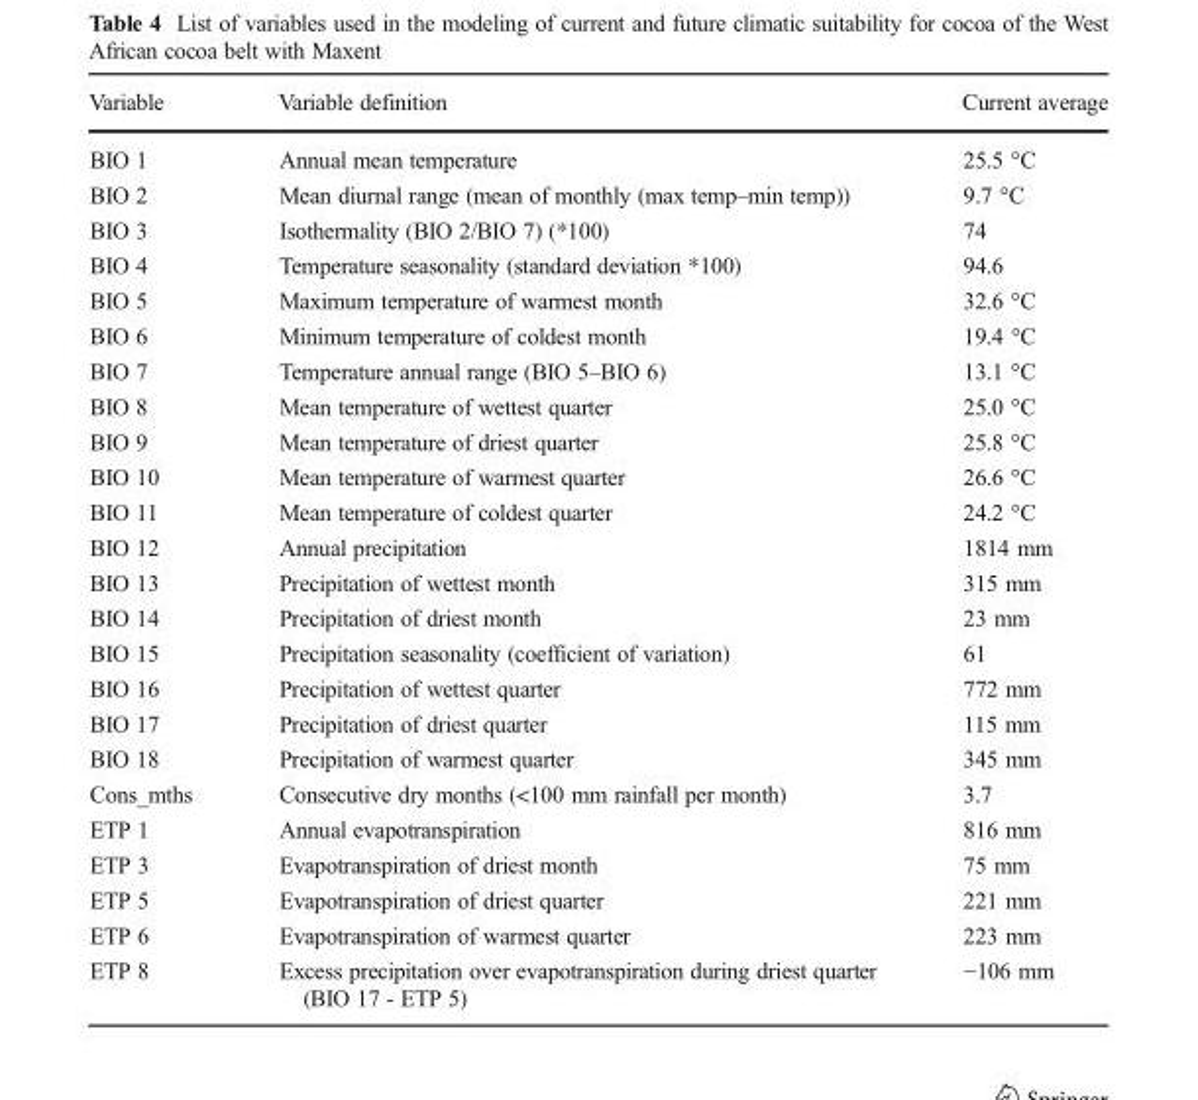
<table><thead><tr><td>Variable</td><td>Variable definition</td><td>Current average</td></tr></thead><tbody><tr><td>BIO 1</td><td>Annual mean temperature</td><td>25.5 °C</td></tr><tr><td>BIO 2</td><td>Mean diurnal range (mean of monthly (max temp–min temp))</td><td>9.7 °C</td></tr><tr><td>BIO 3</td><td>Isothermality (BIO 2/BIO 7) (*100)</td><td>74</td></tr><tr><td>BIO 4</td><td>Temperature seasonality (standard deviation *100)</td><td>94.6</td></tr><tr><td>BIO 5</td><td>Maximum temperature of warmest month</td><td>32.6 °C</td></tr><tr><td>BIO 6</td><td>Minimum temperature of coldest month</td><td>19.4 °C</td></tr><tr><td>BIO 7</td><td>Temperature annual range (BIO 5–BIO 6)</td><td>13.1 °C</td></tr><tr><td>BIO 8</td><td>Mean temperature of wettest quarter</td><td>25.0 °C</td></tr><tr><td>BIO 9</td><td>Mean temperature of driest quarter</td><td>25.8 °C</td></tr><tr><td>BIO 10</td><td>Mean temperature of warmest quarter</td><td>26.6 °C</td></tr><tr><td>BIO 11</td><td>Mean temperature of coldest quarter</td><td>24.2 °C</td></tr><tr><td>BIO 12</td><td>Annual precipitation</td><td>1814 mm</td></tr><tr><td>BIO 13</td><td>Precipitation of wettest month</td><td>315 mm</td></tr><tr><td>BIO 14</td><td>Precipitation of driest month</td><td>23 mm</td></tr><tr><td>BIO 15</td><td>Precipitation seasonality (coefficient of variation)</td><td>61</td></tr><tr><td>BIO 16</td><td>Precipitation of wettest quarter</td><td>772 mm</td></tr><tr><td>BIO 17</td><td>Precipitation of driest quarter</td><td>115 mm</td></tr><tr><td>BIO 18</td><td>Precipitation of warmest quarter</td><td>345 mm</td></tr><tr><td>Cons_mths</td><td>Consecutive dry months (&lt;100 mm rainfall per month)</td><td>3.7</td></tr><tr><td>ETP 1</td><td>Annual evapotranspiration</td><td>816 mm</td></tr><tr><td>ETP 3</td><td>Evapotranspiration of driest month</td><td>75 mm</td></tr><tr><td>ETP 5</td><td>Evapotranspiration of driest quarter</td><td>221 mm</td></tr><tr><td>ETP 6</td><td>Evapotranspiration of warmest quarter</td><td>223 mm</td></tr><tr><td>ETP 8</td><td>Excess precipitation over evapotranspiration during driest quarter (BIO 17 - ETP 5)</td><td>−106 mm</td></tr></tbody></table>